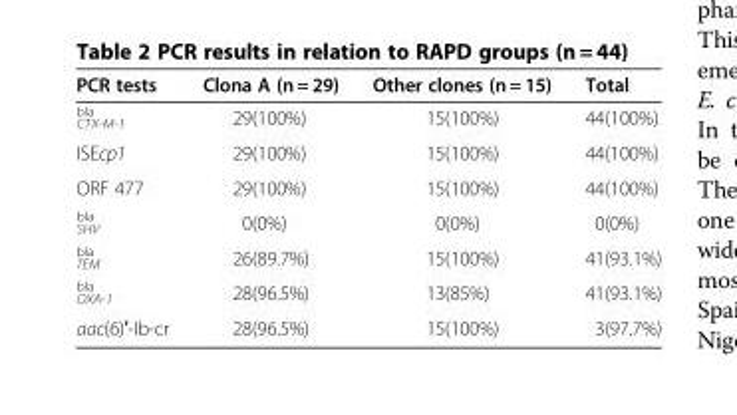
<table><thead><tr><td>PCR tests</td><td>Clona A (n = 29)</td><td>Other clones (n = 15)</td><td>Total</td></tr></thead><tbody><tr><td><sup>bla</sup> <sub>CTX-M-1</sub></td><td>29(100%)</td><td>15(100%)</td><td>44(100%)</td></tr><tr><td>ISEcp1</td><td>29(100%)</td><td>15(100%)</td><td>44(100%)</td></tr><tr><td>ORF 477</td><td>29(100%)</td><td>15(100%)</td><td>44(100%)</td></tr><tr><td><sup>bla</sup> <sub>SHV</sub></td><td>0(0%)</td><td>0(0%)</td><td>0(0%)</td></tr><tr><td><sup>bla</sup> <sub>TEM</sub></td><td>26(89.7%)</td><td>15(100%)</td><td>41(93.1%)</td></tr><tr><td><sup>bla</sup> <sub>OXA-1</sub></td><td>28(96.5%)</td><td>13(85%)</td><td>41(93.1%)</td></tr><tr><td>aac(6)′-Ib-cr</td><td>28(96.5%)</td><td>15(100%)</td><td>3(97.7%)</td></tr></tbody></table>